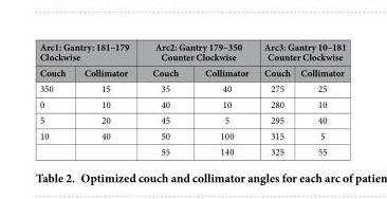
<table><thead><tr><td colspan="2">Arc1: Gantry: 181–179 Clockwise</td><td colspan="2">Arc2: Gantry 179–350 Counter Clockwise</td><td colspan="2">Arc3: Gantry 10–181 Counter Clockwise</td></tr><tr><td>Couch</td><td>Collimator</td><td>Couch</td><td>Collimator</td><td>Couch</td><td>Collimator</td></tr></thead><tbody><tr><td>350</td><td>15</td><td>35</td><td>40</td><td>275</td><td>25</td></tr><tr><td>0</td><td>10</td><td>40</td><td>10</td><td>280</td><td>10</td></tr><tr><td>5</td><td>20</td><td>45</td><td>5</td><td>295</td><td>40</td></tr><tr><td rowspan="2">10</td><td>40</td><td>50</td><td>100</td><td>315</td><td>5</td></tr><tr><td></td><td>55</td><td>140</td><td>325</td><td>55</td></tr></tbody></table>